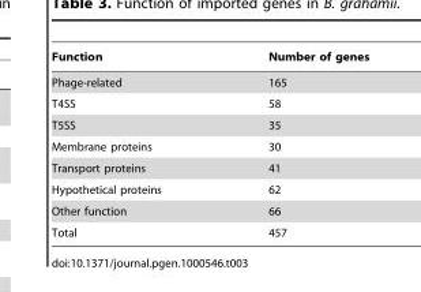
<table><thead><tr><td>Function</td><td>Number of genes</td></tr></thead><tbody><tr><td>Phage-related</td><td>165</td></tr><tr><td>T4SS</td><td>58</td></tr><tr><td>T5SS</td><td>35</td></tr><tr><td>Membrane proteins</td><td>30</td></tr><tr><td>Transport proteins</td><td>41</td></tr><tr><td>Hypothetical proteins</td><td>62</td></tr><tr><td>Other function</td><td>66</td></tr><tr><td>Total</td><td>457</td></tr></tbody></table>